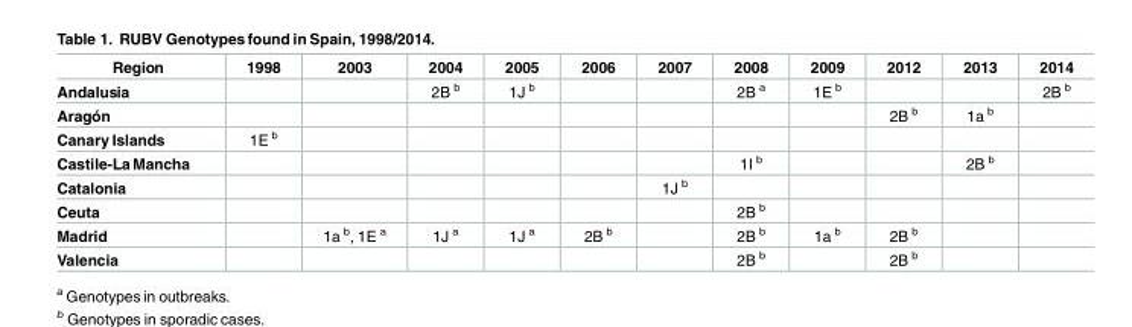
<table><thead><tr><td>Region</td><td>1998</td><td>2003</td><td>2004</td><td>2005</td><td>2006</td><td>2007</td><td>2008</td><td>2009</td><td>2012</td><td>2013</td><td>2014</td></tr></thead><tbody><tr><td>Andalusia</td><td></td><td></td><td>2B <sup>b</sup></td><td>1J <sup>b</sup></td><td></td><td></td><td>2B <sup>a</sup></td><td>1E <sup>b</sup></td><td></td><td></td><td>2B <sup>b</sup></td></tr><tr><td>Aragón</td><td></td><td></td><td></td><td></td><td></td><td></td><td></td><td></td><td>2B <sup>b</sup></td><td>1a <sup>b</sup></td><td></td></tr><tr><td>Canary Islands</td><td>1E <sup>b</sup></td><td></td><td></td><td></td><td></td><td></td><td></td><td></td><td></td><td></td><td></td></tr><tr><td>Castile-La Mancha</td><td></td><td></td><td></td><td></td><td></td><td></td><td>1I <sup>b</sup></td><td></td><td></td><td>2B <sup>b</sup></td><td></td></tr><tr><td>Catalonia</td><td></td><td></td><td></td><td></td><td></td><td>1J <sup>b</sup></td><td></td><td></td><td></td><td></td><td></td></tr><tr><td>Ceuta</td><td></td><td></td><td></td><td></td><td></td><td></td><td>2B <sup>b</sup></td><td></td><td></td><td></td><td></td></tr><tr><td>Madrid</td><td></td><td>1a <sup>b</sup>, 1E <sup>a</sup></td><td>1J <sup>a</sup></td><td>1J <sup>a</sup></td><td>2B <sup>b</sup></td><td></td><td>2B <sup>b</sup></td><td>1a <sup>b</sup></td><td>2B <sup>b</sup></td><td></td><td></td></tr><tr><td>Valencia</td><td></td><td></td><td></td><td></td><td></td><td></td><td>2B <sup>b</sup></td><td></td><td>2B <sup>b</sup></td><td></td><td></td></tr></tbody></table>